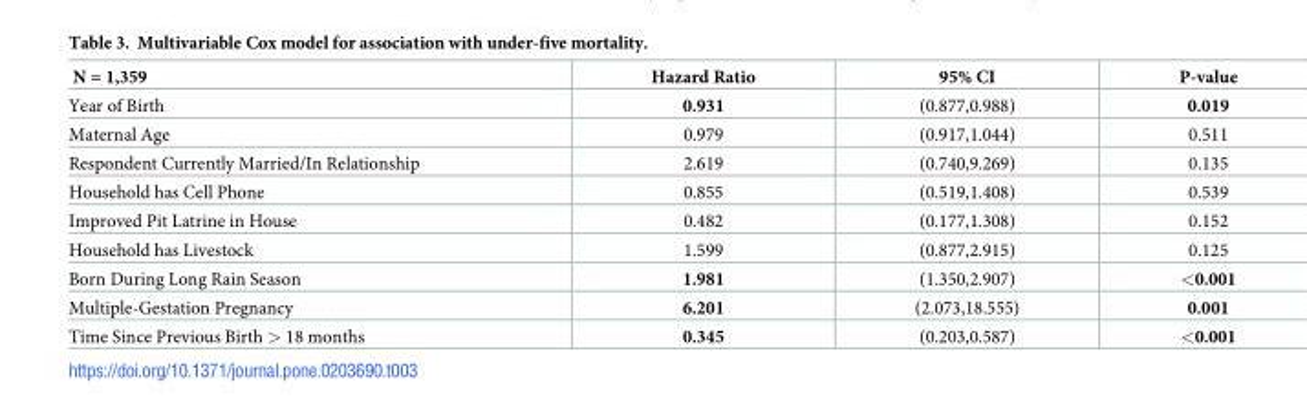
<table><thead><tr><td>N = 1,359</td><td>Hazard Ratio</td><td>95% CI</td><td>P-value</td></tr></thead><tbody><tr><td>Year of Birth</td><td>0.931</td><td>(0.877,0.988)</td><td>0.019</td></tr><tr><td>Maternal Age</td><td>0.979</td><td>(0.917,1.044)</td><td>0.511</td></tr><tr><td>Respondent Currently Married/In Relationship</td><td>2.619</td><td>(0.740,9.269)</td><td>0.135</td></tr><tr><td>Household has Cell Phone</td><td>0.855</td><td>(0.519,1.408)</td><td>0.539</td></tr><tr><td>Improved Pit Latrine in House</td><td>0.482</td><td>(0.177,1.308)</td><td>0.152</td></tr><tr><td>Household has Livestock</td><td>1.599</td><td>(0.877,2.915)</td><td>0.125</td></tr><tr><td>Born During Long Rain Season</td><td>1.981</td><td>(1.350,2.907)</td><td>&lt;0.001</td></tr><tr><td>Multiple-Gestation Pregnancy</td><td>6.201</td><td>(2.073,18.555)</td><td>0.001</td></tr><tr><td>Time Since Previous Birth &gt; 18 months</td><td>0.345</td><td>(0.203,0.587)</td><td>&lt;0.001</td></tr></tbody></table>